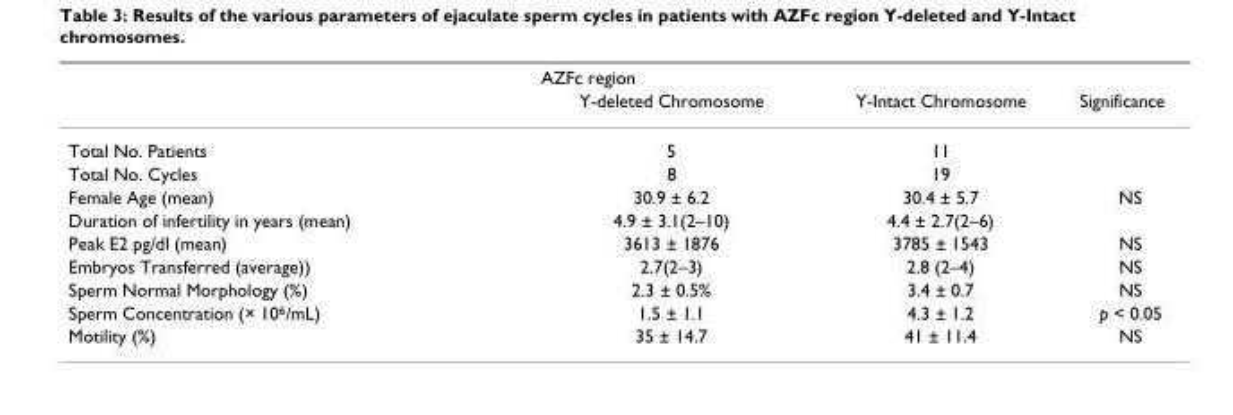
<table><thead><tr><td rowspan="2"></td><td colspan="3">AZFc region</td></tr><tr><td>Y-deleted Chromosome</td><td>Y-Intact Chromosome</td><td>Significance</td></tr></thead><tbody><tr><td>Total No. Patients</td><td>5</td><td>11</td><td></td></tr><tr><td>Total No. Cycles</td><td>8</td><td>19</td><td></td></tr><tr><td>Female Age (mean)</td><td>30.9 ± 6.2</td><td>30.4 ± 5.7</td><td>NS</td></tr><tr><td>Duration of infertility in years (mean)</td><td>4.9 ± 3.1(2–10)</td><td>4.4 ± 2.7(2–6)</td><td></td></tr><tr><td>Peak E2 pg/dl (mean)</td><td>3613 ± 1876</td><td>3785 ± 1543</td><td>NS</td></tr><tr><td>Embryos Transferred (average))</td><td>2.7(2–3)</td><td>2.8 (2–4)</td><td>NS</td></tr><tr><td>Sperm Normal Morphology (%)</td><td>2.3 ± 0.5%</td><td>3.4 ± 0.7</td><td>NS</td></tr><tr><td>Sperm Concentration (× 10<sup>6</sup>/mL)</td><td>1.5 ± 1.1</td><td>4.3 ± 1.2</td><td>p &lt; 0.05</td></tr><tr><td>Motility (%)</td><td>35 ± 14.7</td><td>41 ± 11.4</td><td>NS</td></tr></tbody></table>